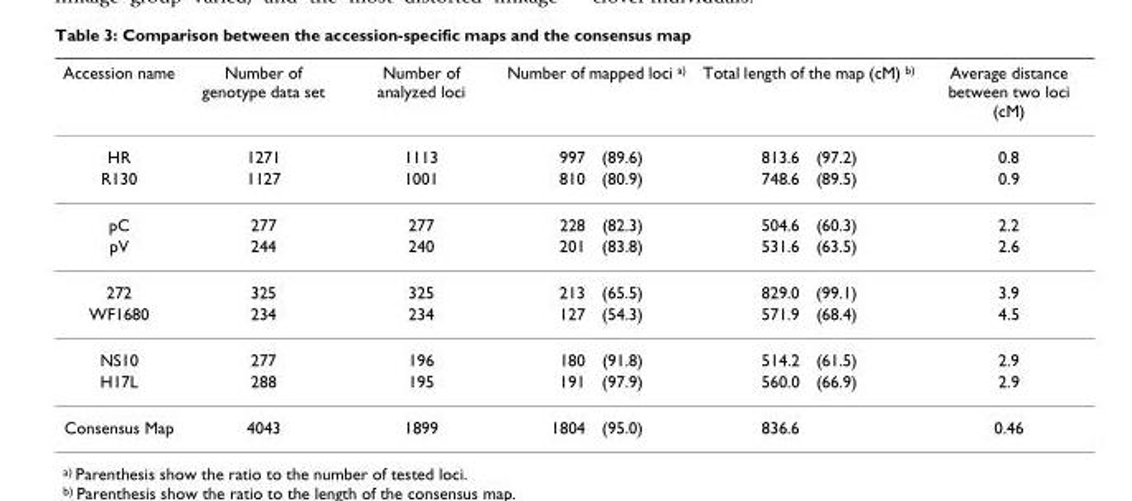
<table><thead><tr><td rowspan="2">Accession name HR</td><td rowspan="2">Number of genotype data set 1271</td><td rowspan="2">Number of analyzed loci 1113</td><td colspan="2">Number of mapped loci a)</td><td colspan="2">Total length of the map (cM) b)</td><td rowspan="2">Average distance between two loci (cM) 0.8</td></tr><tr><td>997</td><td>(89.6)</td><td>813.6</td><td>(97.2)</td></tr></thead><tbody><tr><td>R130</td><td>1127</td><td>1001</td><td>810</td><td>(80.9)</td><td>748.6</td><td>(89.5)</td><td>0.9</td></tr><tr><td>pC</td><td>277</td><td>277</td><td>228</td><td>(82.3)</td><td>504.6</td><td>(60.3)</td><td>2.2</td></tr><tr><td>pV</td><td>244</td><td>240</td><td>201</td><td>(83.8)</td><td>531.6</td><td>(63.5)</td><td>2.6</td></tr><tr><td>272</td><td>325</td><td>325</td><td>213</td><td>(65.5)</td><td>829.0</td><td>(99.1)</td><td>3.9</td></tr><tr><td>WF1680</td><td>234</td><td>234</td><td>127</td><td>(54.3)</td><td>571.9</td><td>(68.4)</td><td>4.5</td></tr><tr><td>NS10</td><td>277</td><td>196</td><td>180</td><td>(91.8)</td><td>514.2</td><td>(61.5)</td><td>2.9</td></tr><tr><td>H17L</td><td>288</td><td>195</td><td>191</td><td>(97.9)</td><td>560.0</td><td>(66.9)</td><td>2.9</td></tr><tr><td>Consensus Map</td><td>4043</td><td>1899</td><td>1804</td><td>(95.0)</td><td>836.6</td><td></td><td>0.46</td></tr></tbody></table>